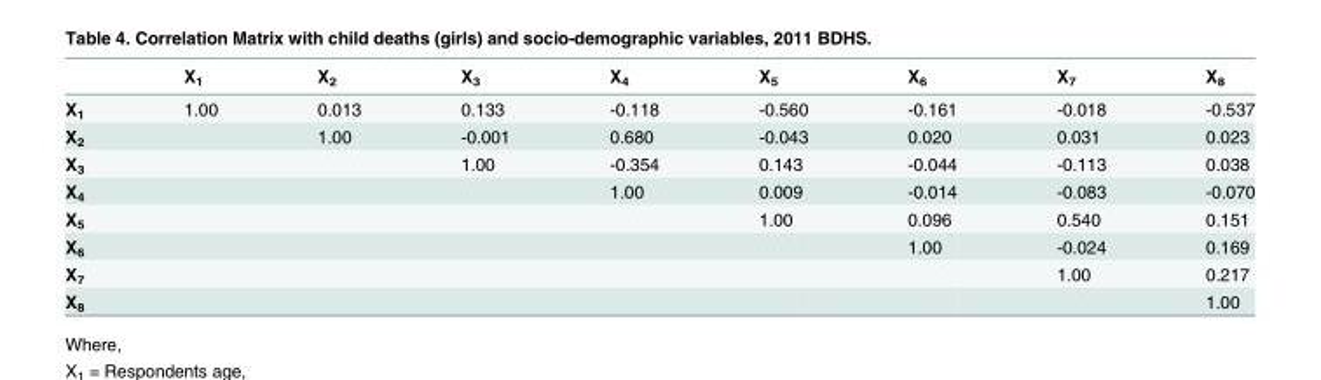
<table><thead><tr><td></td><td>X<sub>1</sub></td><td>X<sub>2</sub></td><td>X<sub>3</sub></td><td>X<sub>4</sub></td><td>X<sub>5</sub></td><td>X<sub>6</sub></td><td>X<sub>7</sub></td><td>X<sub>8</sub></td></tr></thead><tbody><tr><td>X<sub>1</sub></td><td>1.00</td><td>0.013</td><td>0.133</td><td>-0.118</td><td>-0.560</td><td>-0.161</td><td>-0.018</td><td>-0.537</td></tr><tr><td>X<sub>2</sub></td><td></td><td>1.00</td><td>-0.001</td><td>0.680</td><td>-0.043</td><td>0.020</td><td>0.031</td><td>0.023</td></tr><tr><td>X<sub>3</sub></td><td></td><td></td><td>1.00</td><td>-0.354</td><td>0.143</td><td>-0.044</td><td>-0.113</td><td>0.038</td></tr><tr><td>X<sub>4</sub></td><td></td><td></td><td></td><td>1.00</td><td>0.009</td><td>-0.014</td><td>-0.083</td><td>-0.070</td></tr><tr><td>X<sub>5</sub></td><td></td><td></td><td></td><td></td><td>1.00</td><td>0.096</td><td>0.540</td><td>0.151</td></tr><tr><td>X<sub>6</sub></td><td></td><td></td><td></td><td></td><td></td><td>1.00</td><td>-0.024</td><td>0.169</td></tr><tr><td>X<sub>7</sub></td><td></td><td></td><td></td><td></td><td></td><td></td><td>1.00</td><td>0.217</td></tr><tr><td>X<sub>8</sub></td><td></td><td></td><td></td><td></td><td></td><td></td><td></td><td>1.00</td></tr></tbody></table>